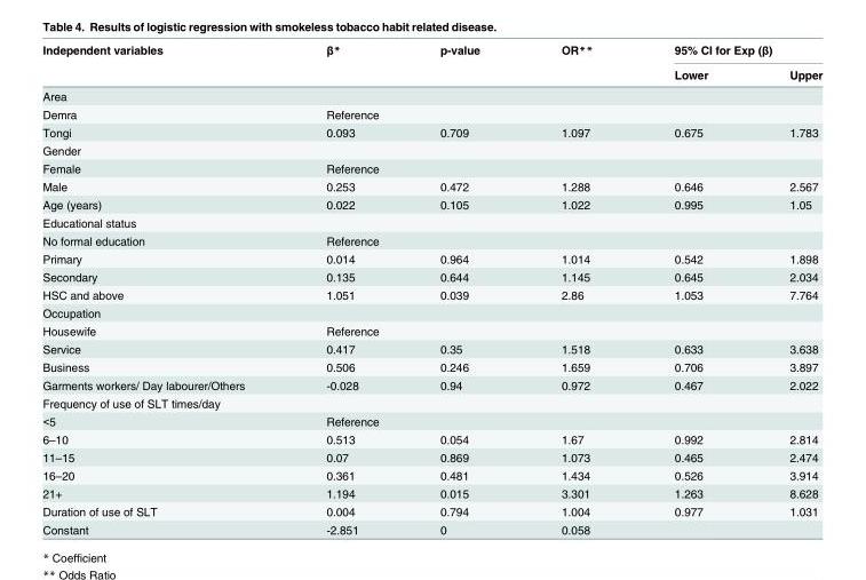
<table><thead><tr><td rowspan="2">Independent variables</td><td rowspan="2">β*</td><td rowspan="2">p-value</td><td rowspan="2">OR**</td><td colspan="2">95% CI for Exp (β)</td></tr><tr><td>Lower</td><td>Upper</td></tr></thead><tbody><tr><td colspan="6">Area</td></tr><tr><td>Demra</td><td colspan="5">Reference</td></tr><tr><td>Tongi</td><td>0.093</td><td>0.709</td><td>1.097</td><td>0.675</td><td>1.783</td></tr><tr><td colspan="6">Gender</td></tr><tr><td>Female</td><td colspan="5">Reference</td></tr><tr><td>Male</td><td>0.253</td><td>0.472</td><td>1.288</td><td>0.646</td><td>2.567</td></tr><tr><td>Age (years)</td><td>0.022</td><td>0.105</td><td>1.022</td><td>0.995</td><td>1.05</td></tr><tr><td colspan="6">Educational status</td></tr><tr><td>No formal education</td><td colspan="5">Reference</td></tr><tr><td>Primary</td><td>0.014</td><td>0.964</td><td>1.014</td><td>0.542</td><td>1.898</td></tr><tr><td>Secondary</td><td>0.135</td><td>0.644</td><td>1.145</td><td>0.645</td><td>2.034</td></tr><tr><td>HSC and above</td><td>1.051</td><td>0.039</td><td>2.86</td><td>1.053</td><td>7.764</td></tr><tr><td colspan="6">Occupation</td></tr><tr><td>Housewife</td><td colspan="5">Reference</td></tr><tr><td>Service</td><td>0.417</td><td>0.35</td><td>1.518</td><td>0.633</td><td>3.638</td></tr><tr><td>Business</td><td>0.506</td><td>0.246</td><td>1.659</td><td>0.706</td><td>3.897</td></tr><tr><td>Garments workers/ Day labourer/Others</td><td>-0.028</td><td>0.94</td><td>0.972</td><td>0.467</td><td>2.022</td></tr><tr><td colspan="6">Frequency of use of SLT times/day</td></tr><tr><td>&lt;5</td><td colspan="5">Reference</td></tr><tr><td>6–10</td><td>0.513</td><td>0.054</td><td>1.67</td><td>0.992</td><td>2.814</td></tr><tr><td>11–15</td><td>0.07</td><td>0.869</td><td>1.073</td><td>0.465</td><td>2.474</td></tr><tr><td>16–20</td><td>0.361</td><td>0.481</td><td>1.434</td><td>0.526</td><td>3.914</td></tr><tr><td>21+</td><td>1.194</td><td>0.015</td><td>3.301</td><td>1.263</td><td>8.628</td></tr><tr><td>Duration of use of SLT</td><td>0.004</td><td>0.794</td><td>1.004</td><td>0.977</td><td>1.031</td></tr><tr><td>Constant</td><td>-2.851</td><td>0</td><td>0.058</td><td></td><td></td></tr></tbody></table>